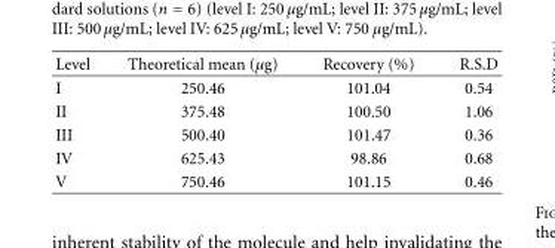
<table><thead><tr><td>Level</td><td>Theoretical mean (µg)</td><td>Recovery (%)</td><td>R.S.D</td></tr></thead><tbody><tr><td>I</td><td>250.46</td><td>101.04</td><td>0.54</td></tr><tr><td>II</td><td>375.48</td><td>100.50</td><td>1.06</td></tr><tr><td>III</td><td>500.40</td><td>101.47</td><td>0.36</td></tr><tr><td>IV</td><td>625.43</td><td>98.86</td><td>0.68</td></tr><tr><td>V</td><td>750.46</td><td>101.15</td><td>0.46</td></tr></tbody></table>